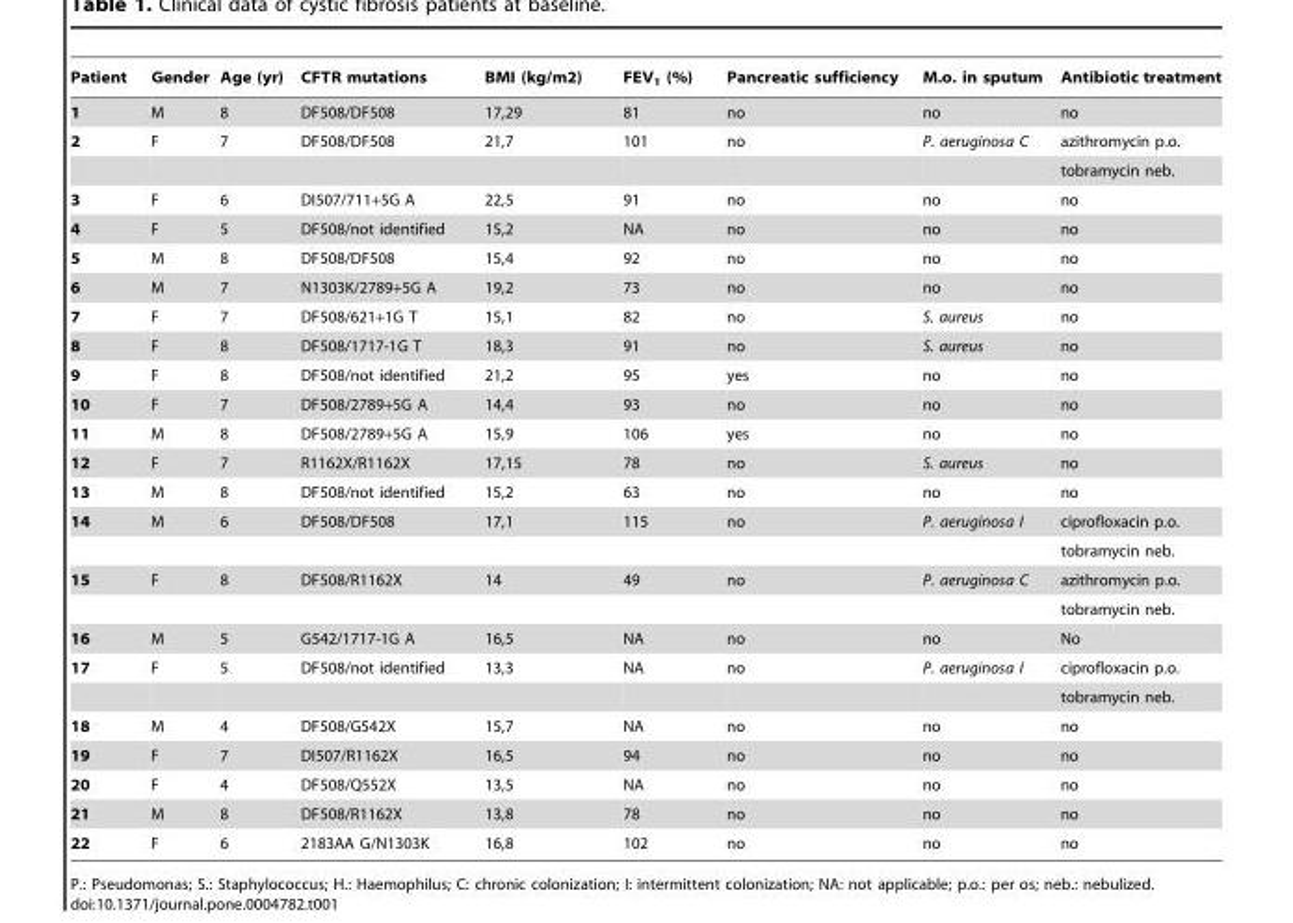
<table><thead><tr><td>Patient</td><td>Gender</td><td>Age (yr)</td><td>CFTR mutations</td><td>BMI (kg/m2)</td><td>FEV<sub>1</sub> (%)</td><td>Pancreatic sufficiency</td><td>M.o. in sputum</td><td>Antibiotic treatment</td></tr></thead><tbody><tr><td>1</td><td>M</td><td>8</td><td>DF508/DF508</td><td>17,29</td><td>81</td><td>no</td><td>no</td><td>no</td></tr><tr><td rowspan="2">2</td><td>F</td><td>7</td><td>DF508/DF508</td><td>21,7</td><td>101</td><td>no</td><td>P. aeruginosa C</td><td>azithromycin p.o.</td></tr><tr><td></td><td></td><td></td><td></td><td></td><td></td><td></td><td>tobramycin neb.</td></tr><tr><td>3</td><td>F</td><td>6</td><td>DI507/711+5G A</td><td>22,5</td><td>91</td><td>no</td><td>no</td><td>no</td></tr><tr><td>4</td><td>F</td><td>5</td><td>DF508/not identified</td><td>15,2</td><td>NA</td><td>no</td><td>no</td><td>no</td></tr><tr><td>5</td><td>M</td><td>8</td><td>DF508/DF508</td><td>15,4</td><td>92</td><td>no</td><td>no</td><td>no</td></tr><tr><td>6</td><td>M</td><td>7</td><td>N1303K/2789+5G A</td><td>19,2</td><td>73</td><td>no</td><td>no</td><td>no</td></tr><tr><td>7</td><td>F</td><td>7</td><td>DF508/621+1G T</td><td>15,1</td><td>82</td><td>no</td><td>S. aureus</td><td>no</td></tr><tr><td>8</td><td>F</td><td>8</td><td>DF508/1717-1G T</td><td>18,3</td><td>91</td><td>no</td><td>S. aureus</td><td>no</td></tr><tr><td>9</td><td>F</td><td>8</td><td>DF508/not identified</td><td>21,2</td><td>95</td><td>yes</td><td>no</td><td>no</td></tr><tr><td>10</td><td>F</td><td>7</td><td>DF508/2789+5G A</td><td>14,4</td><td>93</td><td>no</td><td>no</td><td>no</td></tr><tr><td>11</td><td>M</td><td>8</td><td>DF508/2789+5G A</td><td>15,9</td><td>106</td><td>yes</td><td>no</td><td>no</td></tr><tr><td>12</td><td>F</td><td>7</td><td>R1162X/R1162X</td><td>17,15</td><td>78</td><td>no</td><td>S. aureus</td><td>no</td></tr><tr><td>13</td><td>M</td><td>8</td><td>DF508/not identified</td><td>15,2</td><td>63</td><td>no</td><td>no</td><td>no</td></tr><tr><td rowspan="2">14</td><td>M</td><td>6</td><td>DF508/DF508</td><td>17,1</td><td>115</td><td>no</td><td>P. aeruginosa I</td><td>ciprofloxacin p.o.</td></tr><tr><td></td><td></td><td></td><td></td><td></td><td></td><td></td><td>tobramycin neb.</td></tr><tr><td rowspan="2">15</td><td>F</td><td>8</td><td>DF508/R1162X</td><td>14</td><td>49</td><td>no</td><td>P. aeruginosa C</td><td>azithromycin p.o.</td></tr><tr><td></td><td></td><td></td><td></td><td></td><td></td><td></td><td>tobramycin neb.</td></tr><tr><td>16</td><td>M</td><td>5</td><td>G542/1717-1G A</td><td>16,5</td><td>NA</td><td>no</td><td>no</td><td>No</td></tr><tr><td rowspan="2">17</td><td>F</td><td>5</td><td>DF508/not identified</td><td>13,3</td><td>NA</td><td>no</td><td>P. aeruginosa I</td><td>ciprofloxacin p.o.</td></tr><tr><td></td><td></td><td></td><td></td><td></td><td></td><td></td><td>tobramycin neb.</td></tr><tr><td>18</td><td>M</td><td>4</td><td>DF508/G542X</td><td>15,7</td><td>NA</td><td>no</td><td>no</td><td>no</td></tr><tr><td>19</td><td>F</td><td>7</td><td>DI507/R1162X</td><td>16,5</td><td>94</td><td>no</td><td>no</td><td>no</td></tr><tr><td>20</td><td>F</td><td>4</td><td>DF508/Q552X</td><td>13,5</td><td>NA</td><td>no</td><td>no</td><td>no</td></tr><tr><td>21</td><td>M</td><td>8</td><td>DF508/R1162X</td><td>13,8</td><td>78</td><td>no</td><td>no</td><td>no</td></tr><tr><td>22</td><td>F</td><td>6</td><td>2183AA G/N1303K</td><td>16,8</td><td>102</td><td>no</td><td>no</td><td>no</td></tr></tbody></table>